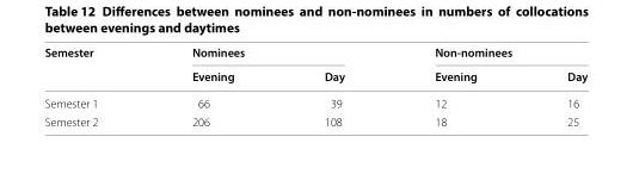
<table><thead><tr><td rowspan="2">Semester</td><td colspan="2">Nominees</td><td colspan="2">Non-nominees</td></tr><tr><td>Evening</td><td>Day</td><td>Evening</td><td>Day</td></tr></thead><tbody><tr><td>Semester 1</td><td>66</td><td>39</td><td>12</td><td>16</td></tr><tr><td>Semester 2</td><td>206</td><td>108</td><td>18</td><td>25</td></tr></tbody></table>